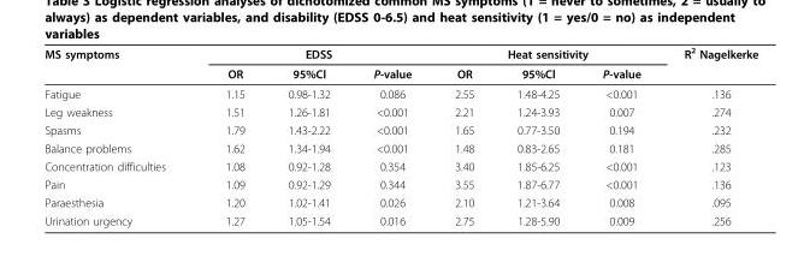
<table><thead><tr><td rowspan="2">MS symptoms</td><td colspan="3">EDSS</td><td colspan="3">Heat sensitivity</td><td rowspan="2">R<sup>2</sup> Nagelkerke</td></tr><tr><td>OR</td><td>95%Cl</td><td>P-value</td><td>OR</td><td>95%Cl</td><td>P-value</td></tr></thead><tbody><tr><td>Fatigue</td><td>1.15</td><td>0.98-1.32</td><td>0.086</td><td>2.55</td><td>1.48-4.25</td><td>&lt;0.001</td><td>.136</td></tr><tr><td>Leg weakness</td><td>1.51</td><td>1.26-1.81</td><td>&lt;0.001</td><td>2.21</td><td>1.24-3.93</td><td>0.007</td><td>.274</td></tr><tr><td>Spasms</td><td>1.79</td><td>1.43-2.22</td><td>&lt;0.001</td><td>1.65</td><td>0.77-3.50</td><td>0.194</td><td>.232</td></tr><tr><td>Balance problems</td><td>1.62</td><td>1.34-1.94</td><td>&lt;0.001</td><td>1.48</td><td>0.83-2.65</td><td>0.181</td><td>.285</td></tr><tr><td>Concentration difficulties</td><td>1.08</td><td>0.92-1.28</td><td>0.354</td><td>3.40</td><td>1.85-6.25</td><td>&lt;0.001</td><td>.123</td></tr><tr><td>Pain</td><td>1.09</td><td>0.92-1.29</td><td>0.344</td><td>3.55</td><td>1.87-6.77</td><td>&lt;0.001</td><td>.136</td></tr><tr><td>Paraesthesia</td><td>1.20</td><td>1.02-1.41</td><td>0.026</td><td>2.10</td><td>1.21-3.64</td><td>0.008</td><td>.095</td></tr><tr><td>Urination urgency</td><td>1.27</td><td>1.05-1.54</td><td>0.016</td><td>2.75</td><td>1.28-5.90</td><td>0.009</td><td>.256</td></tr></tbody></table>